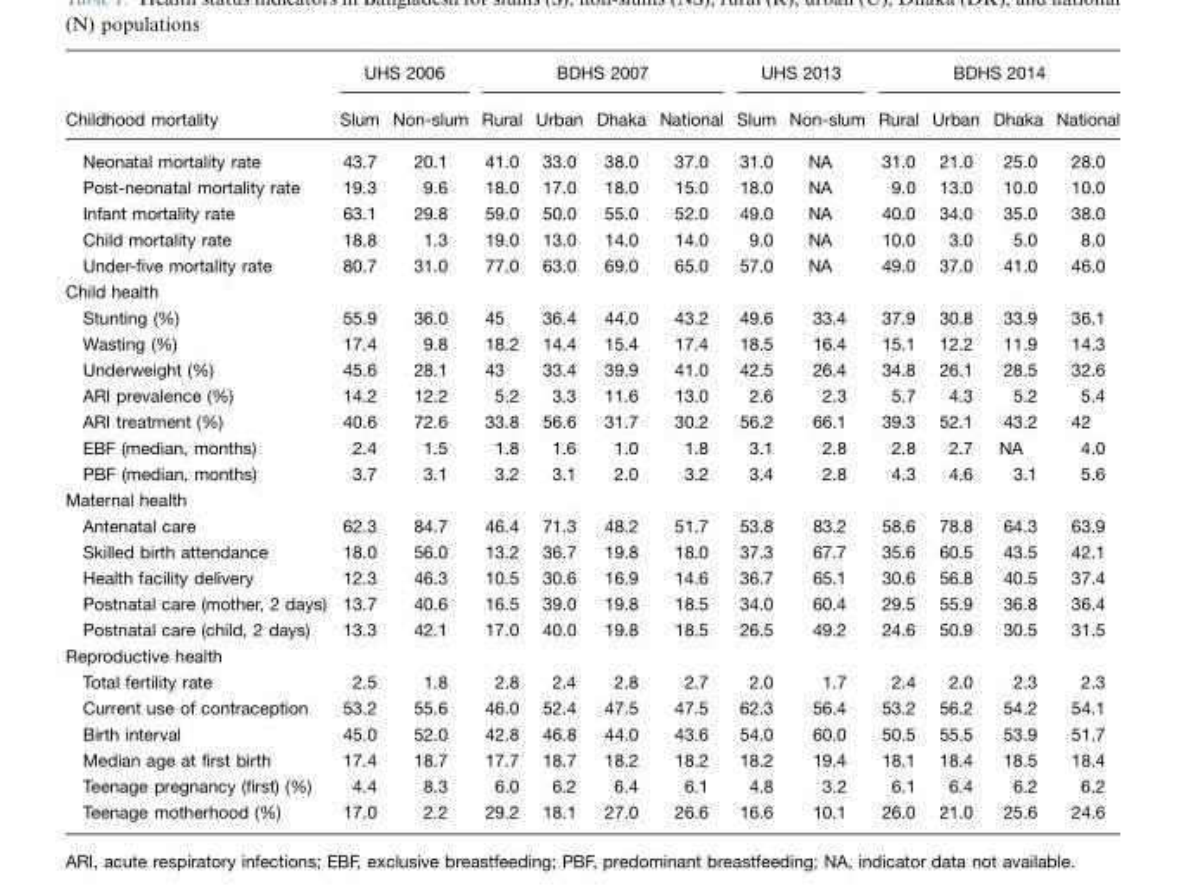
<table><thead><tr><td rowspan="2">Childhood mortality</td><td colspan="2">UHS 2006</td><td colspan="4">BDHS 2007</td><td colspan="2">UHS 2013</td><td colspan="4">BDHS 2014</td></tr><tr><td>Slum</td><td>Non-slum</td><td>Rural</td><td>Urban</td><td>Dhaka</td><td>National</td><td>Slum</td><td>Non-slum</td><td>Rural</td><td>Urban</td><td>Dhaka</td><td>National</td></tr></thead><tbody><tr><td>Neonatal mortality rate</td><td>43.7</td><td>20.1</td><td>41.0</td><td>33.0</td><td>38.0</td><td>37.0</td><td>31.0</td><td>NA</td><td>31.0</td><td>21.0</td><td>25.0</td><td>28.0</td></tr><tr><td>Post-neonatal mortality rate</td><td>19.3</td><td>9.6</td><td>18.0</td><td>17.0</td><td>18.0</td><td>15.0</td><td>18.0</td><td>NA</td><td>9.0</td><td>13.0</td><td>10.0</td><td>10.0</td></tr><tr><td>Infant mortality rate</td><td>63.1</td><td>29.8</td><td>59.0</td><td>50.0</td><td>55.0</td><td>52.0</td><td>49.0</td><td>NA</td><td>40.0</td><td>34.0</td><td>35.0</td><td>38.0</td></tr><tr><td>Child mortality rate</td><td>18.8</td><td>1.3</td><td>19.0</td><td>13.0</td><td>14.0</td><td>14.0</td><td>9.0</td><td>NA</td><td>10.0</td><td>3.0</td><td>5.0</td><td>8.0</td></tr><tr><td>Under-five mortality rate</td><td>80.7</td><td>31.0</td><td>77.0</td><td>63.0</td><td>69.0</td><td>65.0</td><td>57.0</td><td>NA</td><td>49.0</td><td>37.0</td><td>41.0</td><td>46.0</td></tr><tr><td colspan="13">Child health</td></tr><tr><td>Stunting (%)</td><td>55.9</td><td>36.0</td><td>45</td><td>36.4</td><td>44.0</td><td>43.2</td><td>49.6</td><td>33.4</td><td>37.9</td><td>30.8</td><td>33.9</td><td>36.1</td></tr><tr><td>Wasting (%)</td><td>17.4</td><td>9.8</td><td>18.2</td><td>14.4</td><td>15.4</td><td>17.4</td><td>18.5</td><td>16.4</td><td>15.1</td><td>12.2</td><td>11.9</td><td>14.3</td></tr><tr><td>Underweight (%)</td><td>45.6</td><td>28.1</td><td>43</td><td>33.4</td><td>39.9</td><td>41.0</td><td>42.5</td><td>26.4</td><td>34.8</td><td>26.1</td><td>28.5</td><td>32.6</td></tr><tr><td>ARI prevalence (%)</td><td>14.2</td><td>12.2</td><td>5.2</td><td>3.3</td><td>11.6</td><td>13.0</td><td>2.6</td><td>2.3</td><td>5.7</td><td>4.3</td><td>5.2</td><td>5.4</td></tr><tr><td>ARI treatment (%)</td><td>40.6</td><td>72.6</td><td>33.8</td><td>56.6</td><td>31.7</td><td>30.2</td><td>56.2</td><td>66.1</td><td>39.3</td><td>52.1</td><td>43.2</td><td>42</td></tr><tr><td>EBF (median, months)</td><td>2.4</td><td>1.5</td><td>1.8</td><td>1.6</td><td>1.0</td><td>1.8</td><td>3.1</td><td>2.8</td><td>2.8</td><td>2.7</td><td>NA</td><td>4.0</td></tr><tr><td>PBF (median, months)</td><td>3.7</td><td>3.1</td><td>3.2</td><td>3.1</td><td>2.0</td><td>3.2</td><td>3.4</td><td>2.8</td><td>4.3</td><td>4.6</td><td>3.1</td><td>5.6</td></tr><tr><td colspan="13">Maternal health</td></tr><tr><td>Antenatal care</td><td>62.3</td><td>84.7</td><td>46.4</td><td>71.3</td><td>48.2</td><td>51.7</td><td>53.8</td><td>83.2</td><td>58.6</td><td>78.8</td><td>64.3</td><td>63.9</td></tr><tr><td>Skilled birth attendance</td><td>18.0</td><td>56.0</td><td>13.2</td><td>36.7</td><td>19.8</td><td>18.0</td><td>37.3</td><td>67.7</td><td>35.6</td><td>60.5</td><td>43.5</td><td>42.1</td></tr><tr><td>Health facility delivery</td><td>12.3</td><td>46.3</td><td>10.5</td><td>30.6</td><td>16.9</td><td>14.6</td><td>36.7</td><td>65.1</td><td>30.6</td><td>56.8</td><td>40.5</td><td>37.4</td></tr><tr><td>Postnatal care (mother, 2 days)</td><td>13.7</td><td>40.6</td><td>16.5</td><td>39.0</td><td>19.8</td><td>18.5</td><td>34.0</td><td>60.4</td><td>29.5</td><td>55.9</td><td>36.8</td><td>36.4</td></tr><tr><td>Postnatal care (child, 2 days)</td><td>13.3</td><td>42.1</td><td>17.0</td><td>40.0</td><td>19.8</td><td>18.5</td><td>26.5</td><td>49.2</td><td>24.6</td><td>50.9</td><td>30.5</td><td>31.5</td></tr><tr><td colspan="13">Reproductive health</td></tr><tr><td>Total fertility rate</td><td>2.5</td><td>1.8</td><td>2.8</td><td>2.4</td><td>2.8</td><td>2.7</td><td>2.0</td><td>1.7</td><td>2.4</td><td>2.0</td><td>2.3</td><td>2.3</td></tr><tr><td>Current use of contraception</td><td>53.2</td><td>55.6</td><td>46.0</td><td>52.4</td><td>47.5</td><td>47.5</td><td>62.3</td><td>56.4</td><td>53.2</td><td>56.2</td><td>54.2</td><td>54.1</td></tr><tr><td>Birth interval</td><td>45.0</td><td>52.0</td><td>42.8</td><td>46.8</td><td>44.0</td><td>43.6</td><td>54.0</td><td>60.0</td><td>50.5</td><td>55.5</td><td>53.9</td><td>51.7</td></tr><tr><td>Median age at first birth</td><td>17.4</td><td>18.7</td><td>17.7</td><td>18.7</td><td>18.2</td><td>18.2</td><td>18.2</td><td>19.4</td><td>18.1</td><td>18.4</td><td>18.5</td><td>18.4</td></tr><tr><td>Teenage pregnancy (first) (%)</td><td>4.4</td><td>8.3</td><td>6.0</td><td>6.2</td><td>6.4</td><td>6.1</td><td>4.8</td><td>3.2</td><td>6.1</td><td>6.4</td><td>6.2</td><td>6.2</td></tr><tr><td>Teenage motherhood (%)</td><td>17.0</td><td>2.2</td><td>29.2</td><td>18.1</td><td>27.0</td><td>26.6</td><td>16.6</td><td>10.1</td><td>26.0</td><td>21.0</td><td>25.6</td><td>24.6</td></tr></tbody></table>